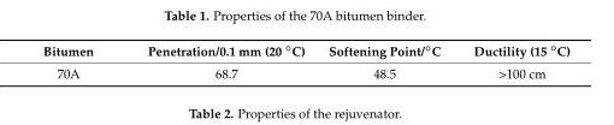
<table><thead><tr><td>Bitumen</td><td>Penetration/0.1 mm (20 ◦C)</td><td>Softening Point/◦C</td><td>Ductility (15 ◦C)</td></tr></thead><tbody><tr><td>70A</td><td>68.7</td><td>48.5</td><td>&gt;100 cm</td></tr></tbody></table>